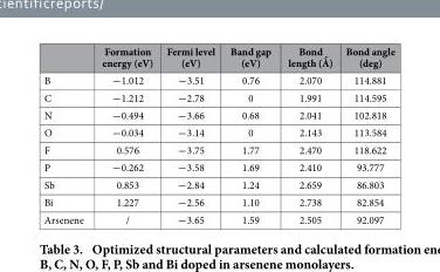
<table><thead><tr><td></td><td>Formation energy (eV)</td><td>Fermi level (eV)</td><td>Band gap (eV)</td><td>Bond length (Ǻ)</td><td>Bond angle (deg)</td></tr></thead><tbody><tr><td>B</td><td>−1.012</td><td>−3.51</td><td>0.76</td><td>2.070</td><td>114.881</td></tr><tr><td>C</td><td>−1.212</td><td>−2.78</td><td>0</td><td>1.991</td><td>114.595</td></tr><tr><td>N</td><td>−0.494</td><td>−3.66</td><td>0.68</td><td>2.041</td><td>102.818</td></tr><tr><td>O</td><td>−0.034</td><td>−3.14</td><td>0</td><td>2.143</td><td>113.584</td></tr><tr><td>F</td><td>0.576</td><td>−3.75</td><td>1.77</td><td>2.470</td><td>118.622</td></tr><tr><td>P</td><td>−0.262</td><td>−3.58</td><td>1.69</td><td>2.410</td><td>93.777</td></tr><tr><td>Sb</td><td>0.853</td><td>−2.84</td><td>1.24</td><td>2.659</td><td>86.803</td></tr><tr><td>Bi</td><td>1.227</td><td>−2.56</td><td>1.10</td><td>2.738</td><td>82.854</td></tr><tr><td>Arsenene</td><td>/</td><td>−3.65</td><td>1.59</td><td>2.505</td><td>92.097</td></tr></tbody></table>